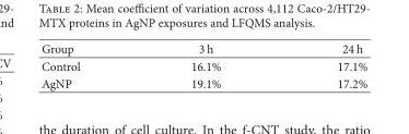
<table><thead><tr><td>Group</td><td>3 h</td><td>24 h</td></tr></thead><tbody><tr><td>Control</td><td>16.1%</td><td>17.1%</td></tr><tr><td>AgNP</td><td>19.1%</td><td>17.2%</td></tr></tbody></table>